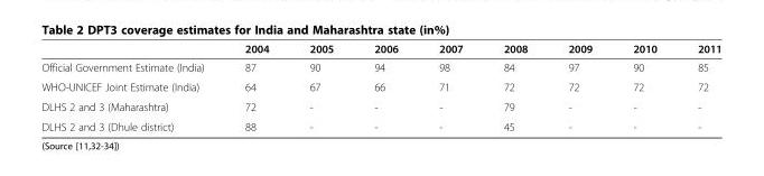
<table><thead><tr><td></td><td>2004</td><td>2005</td><td>2006</td><td>2007</td><td>2008</td><td>2009</td><td>2010</td><td>2011</td></tr></thead><tbody><tr><td>Official Government Estimate (India)</td><td>87</td><td>90</td><td>94</td><td>98</td><td>84</td><td>97</td><td>90</td><td>85</td></tr><tr><td>WHO-UNICEF Joint Estimate (India)</td><td>64</td><td>67</td><td>66</td><td>71</td><td>72</td><td>72</td><td>72</td><td>72</td></tr><tr><td>DLHS 2 and 3 (Maharashtra)</td><td>72</td><td>-</td><td>-</td><td>-</td><td>79</td><td>-</td><td>-</td><td>-</td></tr><tr><td>DLHS 2 and 3 (Dhule district)</td><td>88</td><td>-</td><td>-</td><td>-</td><td>45</td><td>-</td><td>-</td><td>-</td></tr></tbody></table>